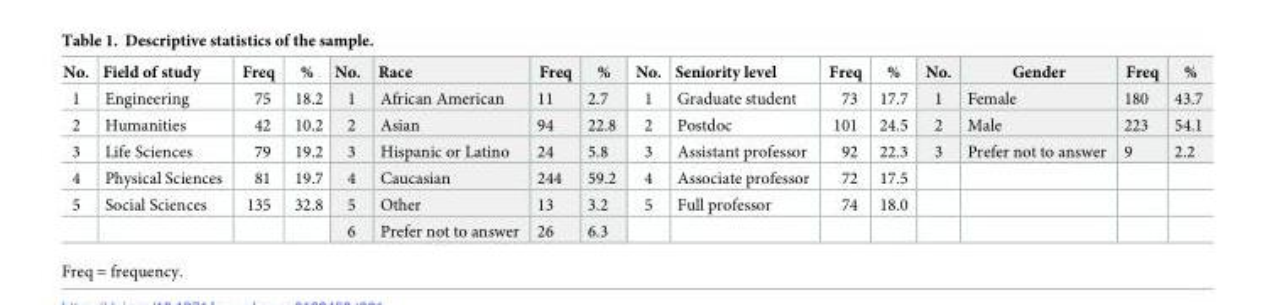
<table><thead><tr><td>No.</td><td>Field of study</td><td>Freq</td><td>%</td><td>No.</td><td>Race</td><td>Freq</td><td>%</td><td>No.</td><td>Seniority level</td><td>Freq</td><td>%</td><td>No.</td><td>Gender</td><td>Freq</td><td>%</td></tr></thead><tbody><tr><td>1</td><td>Engineering</td><td>75</td><td>18.2</td><td>1</td><td>African American</td><td>11</td><td>2.7</td><td>1</td><td>Graduate student</td><td>73</td><td>17.7</td><td>1</td><td>Female</td><td>180</td><td>43.7</td></tr><tr><td>2</td><td>Humanities</td><td>42</td><td>10.2</td><td>2</td><td>Asian</td><td>94</td><td>22.8</td><td>2</td><td>Postdoc</td><td>101</td><td>24.5</td><td>2</td><td>Male</td><td>223</td><td>54.1</td></tr><tr><td>3</td><td>Life Sciences</td><td>79</td><td>19.2</td><td>3</td><td>Hispanic or Latino</td><td>24</td><td>5.8</td><td>3</td><td>Assistant professor</td><td>92</td><td>22.3</td><td>3</td><td>Prefer not to answer</td><td>9</td><td>2.2</td></tr><tr><td>4</td><td>Physical Sciences</td><td>81</td><td>19.7</td><td>4</td><td>Caucasian</td><td>244</td><td>59.2</td><td>4</td><td>Associate professor</td><td>72</td><td>17.5</td><td></td><td></td><td></td><td></td></tr><tr><td rowspan="2">5</td><td>Social Sciences</td><td>135</td><td>32.8</td><td>5</td><td>Other</td><td>13</td><td>3.2</td><td>5</td><td>Full professor</td><td>74</td><td>18.0</td><td></td><td></td><td></td><td></td></tr><tr><td></td><td></td><td></td><td>6</td><td>Prefer not to answer</td><td>26</td><td>6.3</td><td></td><td></td><td></td><td></td><td></td><td></td><td></td><td></td></tr></tbody></table>